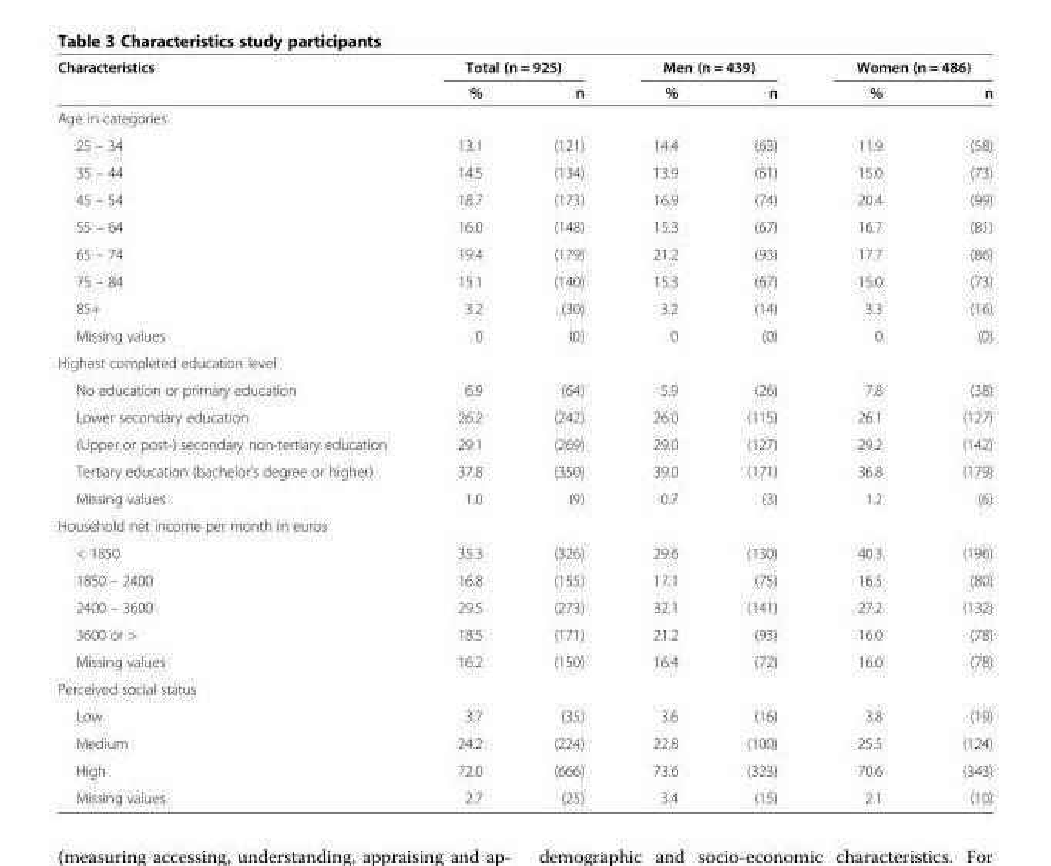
<table><thead><tr><td rowspan="2">Characteristics</td><td colspan="2">Total (n = 925)</td><td colspan="2">Men (n = 439)</td><td colspan="2">Women (n = 486)</td></tr><tr><td>%</td><td>n</td><td>%</td><td>n</td><td>%</td><td>n</td></tr></thead><tbody><tr><td colspan="7">Age in categories</td></tr><tr><td>25 – 34</td><td>13.1</td><td>(121)</td><td>14.4</td><td>(63)</td><td>11.9</td><td>(58)</td></tr><tr><td>35 – 44</td><td>14.5</td><td>(134)</td><td>13.9</td><td>(61)</td><td>15.0</td><td>(73)</td></tr><tr><td>45 – 54</td><td>18.7</td><td>(173)</td><td>16.9</td><td>(74)</td><td>20.4</td><td>(99)</td></tr><tr><td>55 – 64</td><td>16.0</td><td>(148)</td><td>15.3</td><td>(67)</td><td>16.7</td><td>(81)</td></tr><tr><td>65 – 74</td><td>19.4</td><td>(179)</td><td>21.2</td><td>(93)</td><td>17.7</td><td>(86)</td></tr><tr><td>75 – 84</td><td>15.1</td><td>(140)</td><td>15.3</td><td>(67)</td><td>15.0</td><td>(73)</td></tr><tr><td>85+</td><td>3.2</td><td>(30)</td><td>3.2</td><td>(14)</td><td>3.3</td><td>(16)</td></tr><tr><td>Missing values</td><td>0</td><td>(0)</td><td>0</td><td>(0)</td><td>0</td><td>(0)</td></tr><tr><td colspan="7">Highest completed education level</td></tr><tr><td>No education or primary education</td><td>6.9</td><td>(64)</td><td>5.9</td><td>(26)</td><td>7.8</td><td>(38)</td></tr><tr><td>Lower secondary education</td><td>26.2</td><td>(242)</td><td>26.0</td><td>(115)</td><td>26.1</td><td>(127)</td></tr><tr><td>(Upper or post-) secondary non-tertiary education</td><td>29.1</td><td>(269)</td><td>29.0</td><td>(127)</td><td>29.2</td><td>(142)</td></tr><tr><td>Tertiary education (bachelor’s degree or higher)</td><td>37.8</td><td>(350)</td><td>39.0</td><td>(171)</td><td>36.8</td><td>(179)</td></tr><tr><td>Missing values</td><td>1.0</td><td>(9)</td><td>0.7</td><td>(3)</td><td>1.2</td><td>(6)</td></tr><tr><td colspan="7">Household net income per month in euros</td></tr><tr><td>&lt; 1850</td><td>35.3</td><td>(326)</td><td>29.6</td><td>(130)</td><td>40.3</td><td>(196)</td></tr><tr><td>1850 – 2400</td><td>16.8</td><td>(155)</td><td>17.1</td><td>(75)</td><td>16.5</td><td>(80)</td></tr><tr><td>2400 – 3600</td><td>29.5</td><td>(273)</td><td>32.1</td><td>(141)</td><td>27.2</td><td>(132)</td></tr><tr><td>3600 or &gt;</td><td>18.5</td><td>(171)</td><td>21.2</td><td>(93)</td><td>16.0</td><td>(78)</td></tr><tr><td>Missing values</td><td>16.2</td><td>(150)</td><td>16.4</td><td>(72)</td><td>16.0</td><td>(78)</td></tr><tr><td colspan="7">Perceived social status</td></tr><tr><td>Low</td><td>3.7</td><td>(35)</td><td>3.6</td><td>(16)</td><td>3.8</td><td>(19)</td></tr><tr><td>Medium</td><td>24.2</td><td>(224)</td><td>22.8</td><td>(100)</td><td>25.5</td><td>(124)</td></tr><tr><td>High</td><td>72.0</td><td>(666)</td><td>73.6</td><td>(323)</td><td>70.6</td><td>(343)</td></tr><tr><td>Missing values</td><td>2.7</td><td>(25)</td><td>3.4</td><td>(15)</td><td>2.1</td><td>(10)</td></tr></tbody></table>